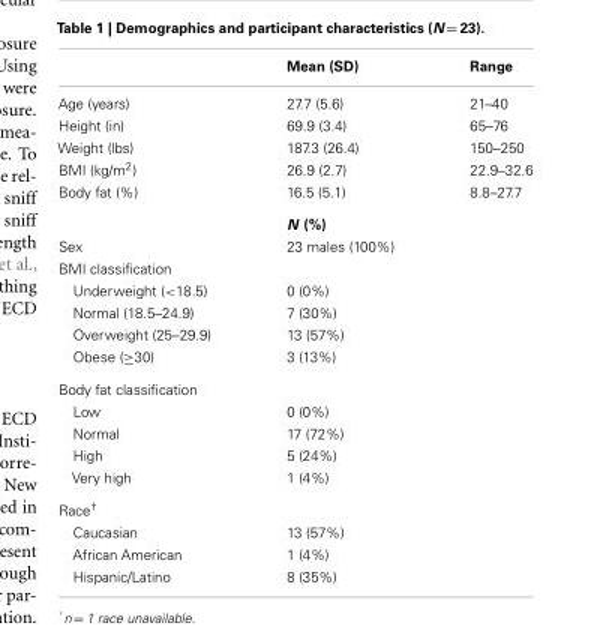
<table><thead><tr><td></td><td>Mean (SD)</td><td>Range</td></tr></thead><tbody><tr><td>Age (years)</td><td>27.7 (5.6)</td><td>21–40</td></tr><tr><td>Height (in)</td><td>69.9 (3.4)</td><td>65–76</td></tr><tr><td>Weight (lbs)</td><td>187.3 (26.4)</td><td>150–250</td></tr><tr><td>BMI (kg/m<sup>2</sup>)</td><td>26.9 (2.7)</td><td>22.9–32.6</td></tr><tr><td rowspan="2">Body fat (%)</td><td>16.5 (5.1)</td><td>8.8–27.7</td></tr><tr><td>N (%)</td><td></td></tr><tr><td>Sex</td><td>23 males (100%)</td><td></td></tr><tr><td colspan="3">BMI classification</td></tr><tr><td>Underweight (&lt;18.5)</td><td>0 (0%)</td><td></td></tr><tr><td>Normal (18.5–24.9)</td><td>7 (30%)</td><td></td></tr><tr><td>Overweight (25–29.9)</td><td>13 (57%)</td><td></td></tr><tr><td>Obese (≥30)</td><td>3 (13%)</td><td></td></tr><tr><td colspan="3">Body fat classification</td></tr><tr><td>Low</td><td>0 (0%)</td><td></td></tr><tr><td>Normal</td><td>17 (72%)</td><td></td></tr><tr><td>High</td><td>5 (24%)</td><td></td></tr><tr><td>Very high</td><td>1 (4%)</td><td></td></tr><tr><td colspan="3">Race<sup>†</sup></td></tr><tr><td>Caucasian</td><td>13 (57%)</td><td></td></tr><tr><td>African American</td><td>1 (4%)</td><td></td></tr><tr><td>Hispanic/Latino</td><td>8 (35%)</td><td></td></tr></tbody></table>